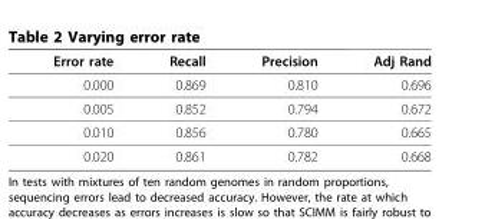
<table><thead><tr><td>Error rate</td><td>Recall</td><td>Precision</td><td>Adj Rand</td></tr></thead><tbody><tr><td>0.000</td><td>0.869</td><td>0.810</td><td>0.696</td></tr><tr><td>0.005</td><td>0.852</td><td>0.794</td><td>0.672</td></tr><tr><td>0.010</td><td>0.856</td><td>0.780</td><td>0.665</td></tr><tr><td>0.020</td><td>0.861</td><td>0.782</td><td>0.668</td></tr></tbody></table>